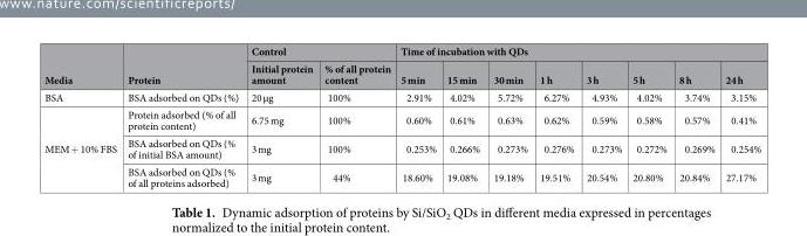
<table><thead><tr><td rowspan="2">Media</td><td rowspan="2">Protein</td><td colspan="2">Control</td><td colspan="8">Time of incubation with QDs</td></tr><tr><td>Initial protein amount</td><td>% of all protein content</td><td>5 min</td><td>15 min</td><td>30 min</td><td>1 h</td><td>3 h</td><td>5 h</td><td>8 h</td><td>24 h</td></tr></thead><tbody><tr><td>BSA</td><td>BSA adsorbed on QDs (%)</td><td>20 µg</td><td>100%</td><td>2.91%</td><td>4.02%</td><td>5.72%</td><td>6.27%</td><td>4.93%</td><td>4.02%</td><td>3.74%</td><td>3.15%</td></tr><tr><td rowspan="3">MEM + 10% FBS</td><td>Protein adsorbed (% of all protein content)</td><td>6.75 mg</td><td>100%</td><td>0.60%</td><td>0.61%</td><td>0.63%</td><td>0.62%</td><td>0.59%</td><td>0.58%</td><td>0.57%</td><td>0.41%</td></tr><tr><td>BSA adsorbed on QDs (% of initial BSA amount)</td><td>3 mg</td><td>100%</td><td>0.253%</td><td>0.266%</td><td>0.273%</td><td>0.276%</td><td>0.273%</td><td>0.272%</td><td>0.269%</td><td>0.254%</td></tr><tr><td>BSA adsorbed on QDs (% of all proteins adsorbed)</td><td>3 mg</td><td>44%</td><td>18.60%</td><td>19.08%</td><td>19.18%</td><td>19.51%</td><td>20.54%</td><td>20.80%</td><td>20.84%</td><td>27.17%</td></tr></tbody></table>